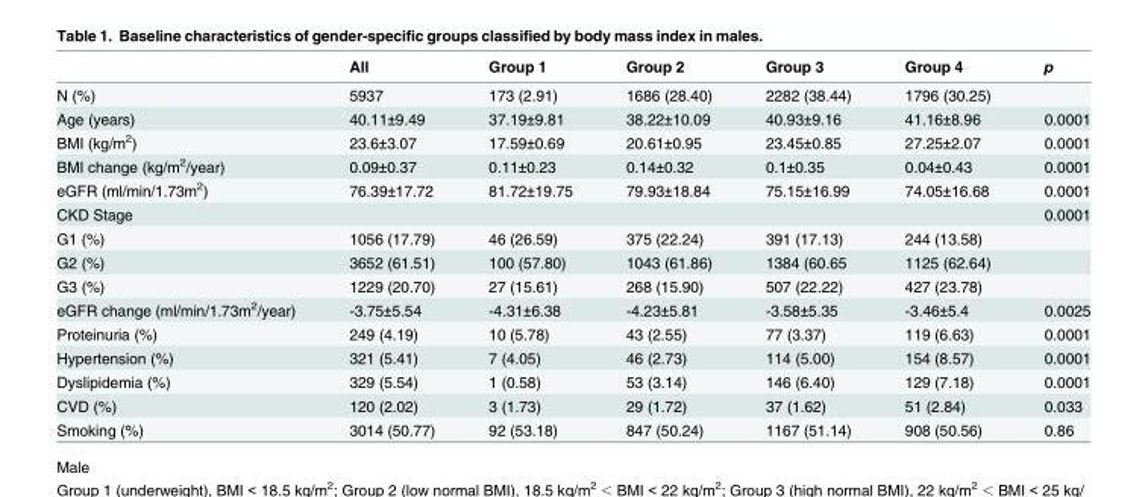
<table><thead><tr><td></td><td>All</td><td>Group 1</td><td>Group 2</td><td>Group 3</td><td>Group 4</td><td>p</td></tr></thead><tbody><tr><td>N (%)</td><td>5937</td><td>173 (2.91)</td><td>1686 (28.40)</td><td>2282 (38.44)</td><td>1796 (30.25)</td><td></td></tr><tr><td>Age (years)</td><td>40.11±9.49</td><td>37.19±9.81</td><td>38.22±10.09</td><td>40.93±9.16</td><td>41.16±8.96</td><td>0.0001</td></tr><tr><td>BMI (kg/m<sup>2</sup>)</td><td>23.6±3.07</td><td>17.59±0.69</td><td>20.61±0.95</td><td>23.45±0.85</td><td>27.25±2.07</td><td>0.0001</td></tr><tr><td>BMI change (kg/m<sup>2</sup>/year)</td><td>0.09±0.37</td><td>0.11±0.23</td><td>0.14±0.32</td><td>0.1±0.35</td><td>0.04±0.43</td><td>0.0001</td></tr><tr><td>eGFR (ml/min/1.73m<sup>2</sup>)</td><td>76.39±17.72</td><td>81.72±19.75</td><td>79.93±18.84</td><td>75.15±16.99</td><td>74.05±16.68</td><td>0.0001</td></tr><tr><td>CKD Stage</td><td></td><td></td><td></td><td></td><td></td><td>0.0001</td></tr><tr><td>G1 (%)</td><td>1056 (17.79)</td><td>46 (26.59)</td><td>375 (22.24)</td><td>391 (17.13)</td><td>244 (13.58)</td><td></td></tr><tr><td>G2 (%)</td><td>3652 (61.51)</td><td>100 (57.80)</td><td>1043 (61.86)</td><td>1384 (60.65</td><td>1125 (62.64)</td><td></td></tr><tr><td>G3 (%)</td><td>1229 (20.70)</td><td>27 (15.61)</td><td>268 (15.90)</td><td>507 (22.22)</td><td>427 (23.78)</td><td></td></tr><tr><td>eGFR change (ml/min/1.73m<sup>2</sup>/year)</td><td>-3.75±5.54</td><td>-4.31±6.38</td><td>-4.23±5.81</td><td>-3.58±5.35</td><td>-3.46±5.4</td><td>0.0025</td></tr><tr><td>Proteinuria (%)</td><td>249 (4.19)</td><td>10 (5.78)</td><td>43 (2.55)</td><td>77 (3.37)</td><td>119 (6.63)</td><td>0.0001</td></tr><tr><td>Hypertension (%)</td><td>321 (5.41)</td><td>7 (4.05)</td><td>46 (2.73)</td><td>114 (5.00)</td><td>154 (8.57)</td><td>0.0001</td></tr><tr><td>Dyslipidemia (%)</td><td>329 (5.54)</td><td>1 (0.58)</td><td>53 (3.14)</td><td>146 (6.40)</td><td>129 (7.18)</td><td>0.0001</td></tr><tr><td>CVD (%)</td><td>120 (2.02)</td><td>3 (1.73)</td><td>29 (1.72)</td><td>37 (1.62)</td><td>51 (2.84)</td><td>0.033</td></tr><tr><td>Smoking (%)</td><td>3014 (50.77)</td><td>92 (53.18)</td><td>847 (50.24)</td><td>1167 (51.14)</td><td>908 (50.56)</td><td>0.86</td></tr></tbody></table>